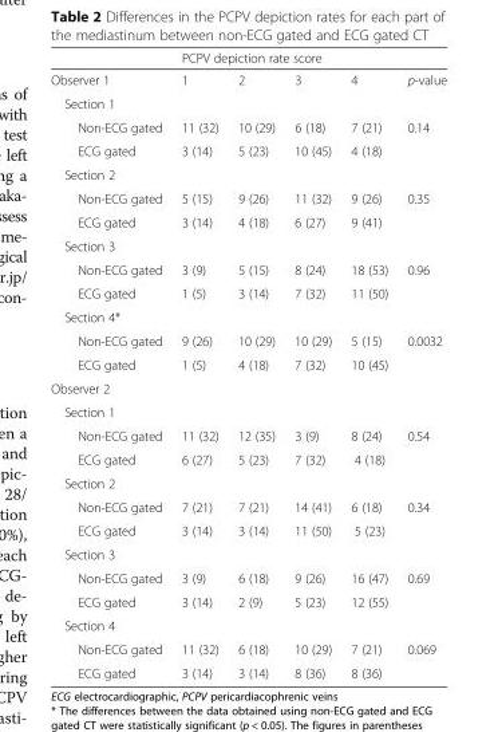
<table><thead><tr><td rowspan="2">Observer 1</td><td colspan="4">PCPV depiction rate score</td><td rowspan="2">p-value</td></tr><tr><td>1</td><td>2</td><td>3</td><td>4</td></tr></thead><tbody><tr><td colspan="6">Section 1</td></tr><tr><td>Non-ECG gated</td><td>11 (32)</td><td>10 (29)</td><td>6 (18)</td><td>7 (21)</td><td rowspan="2">0.14</td></tr><tr><td>ECG gated</td><td>3 (14)</td><td>5 (23)</td><td>10 (45)</td><td>4 (18)</td></tr><tr><td colspan="6">Section 2</td></tr><tr><td>Non-ECG gated</td><td>5 (15)</td><td>9 (26)</td><td>11 (32)</td><td>9 (26)</td><td rowspan="2">0.35</td></tr><tr><td>ECG gated</td><td>3 (14)</td><td>4 (18)</td><td>6 (27)</td><td>9 (41)</td></tr><tr><td colspan="6">Section 3</td></tr><tr><td>Non-ECG gated</td><td>3 (9)</td><td>5 (15)</td><td>8 (24)</td><td>18 (53)</td><td rowspan="2">0.96</td></tr><tr><td>ECG gated</td><td>1 (5)</td><td>3 (14)</td><td>7 (32)</td><td>11 (50)</td></tr><tr><td colspan="6">Section 4*</td></tr><tr><td>Non-ECG gated</td><td>9 (26)</td><td>10 (29)</td><td>10 (29)</td><td>5 (15)</td><td rowspan="2">0.0032</td></tr><tr><td>ECG gated</td><td>1 (5)</td><td>4 (18)</td><td>7 (32)</td><td>10 (45)</td></tr><tr><td colspan="6">Observer 2</td></tr><tr><td colspan="6">Section 1</td></tr><tr><td>Non-ECG gated</td><td>11 (32)</td><td>12 (35)</td><td>3 (9)</td><td>8 (24)</td><td rowspan="2">0.54</td></tr><tr><td>ECG gated</td><td>6 (27)</td><td>5 (23)</td><td>7 (32)</td><td>4 (18)</td></tr><tr><td colspan="6">Section 2</td></tr><tr><td>Non-ECG gated</td><td>7 (21)</td><td>7 (21)</td><td>14 (41)</td><td>6 (18)</td><td rowspan="2">0.34</td></tr><tr><td>ECG gated</td><td>3 (14)</td><td>3 (14)</td><td>11 (50)</td><td>5 (23)</td></tr><tr><td colspan="6">Section 3</td></tr><tr><td>Non-ECG gated</td><td>3 (9)</td><td>6 (18)</td><td>9 (26)</td><td>16 (47)</td><td rowspan="2">0.69</td></tr><tr><td>ECG gated</td><td>3 (14)</td><td>2 (9)</td><td>5 (23)</td><td>12 (55)</td></tr><tr><td colspan="6">Section 4</td></tr><tr><td>Non-ECG gated</td><td>11 (32)</td><td>6 (18)</td><td>10 (29)</td><td>7 (21)</td><td rowspan="2">0.069</td></tr><tr><td>ECG gated</td><td>3 (14)</td><td>3 (14)</td><td>8 (36)</td><td>8 (36)</td></tr></tbody></table>